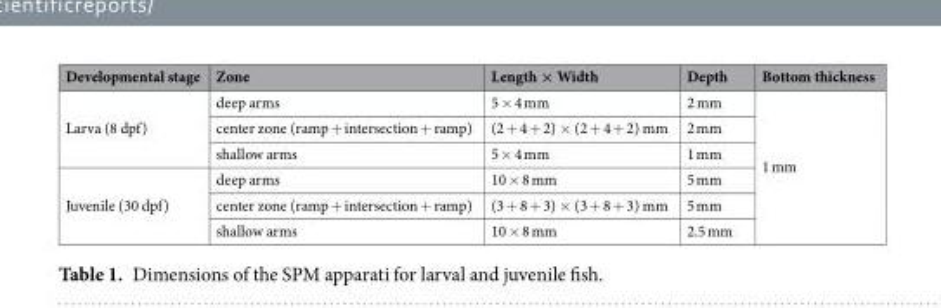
<table><thead><tr><td>Developmental stage</td><td>Zone</td><td>Length × Width</td><td>Depth</td><td>Bottom thickness</td></tr></thead><tbody><tr><td rowspan="3">Larva (8 dpf)</td><td>deep arms</td><td>5 × 4 mm</td><td>2 mm</td><td rowspan="6">1 mm</td></tr><tr><td>center zone (ramp + intersection + ramp)</td><td>(2 + 4 + 2) × (2 + 4 + 2) mm</td><td>2 mm</td></tr><tr><td>shallow arms</td><td>5 × 4 mm</td><td>1 mm</td></tr><tr><td rowspan="3">Juvenile (30 dpf)</td><td>deep arms</td><td>10 × 8 mm</td><td>5 mm</td></tr><tr><td>center zone (ramp + intersection + ramp)</td><td>(3 + 8 + 3) × (3 + 8 + 3) mm</td><td>5 mm</td></tr><tr><td>shallow arms</td><td>10 × 8 mm</td><td>2.5 mm</td></tr></tbody></table>